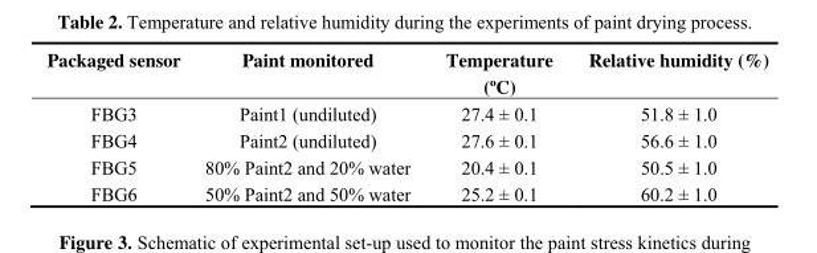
<table><thead><tr><td>Packaged sensor</td><td>Paint monitored</td><td>Temperature (ºC)</td><td>Relative humidity (%)</td></tr></thead><tbody><tr><td>FBG3</td><td>Paint1 (undiluted)</td><td>27.4 ± 0.1</td><td>51.8 ± 1.0</td></tr><tr><td>FBG4</td><td>Paint2 (undiluted)</td><td>27.6 ± 0.1</td><td>56.6 ± 1.0</td></tr><tr><td>FBG5</td><td>80% Paint2 and 20% water</td><td>20.4 ± 0.1</td><td>50.5 ± 1.0</td></tr><tr><td>FBG6</td><td>50% Paint2 and 50% water</td><td>25.2 ± 0.1</td><td>60.2 ± 1.0</td></tr></tbody></table>